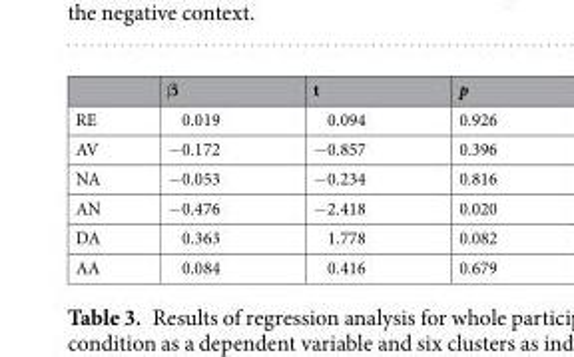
<table><thead><tr><td></td><td>β</td><td>t</td><td>p</td></tr></thead><tbody><tr><td>RE</td><td>0.019</td><td>0.094</td><td>0.926</td></tr><tr><td>AV</td><td>−0.172</td><td>−0.857</td><td>0.396</td></tr><tr><td>NA</td><td>−0.053</td><td>−0.234</td><td>0.816</td></tr><tr><td>AN</td><td>−0.476</td><td>−2.418</td><td>0.020</td></tr><tr><td>DA</td><td>0.363</td><td>1.778</td><td>0.082</td></tr><tr><td>AA</td><td>0.084</td><td>0.416</td><td>0.679</td></tr></tbody></table>